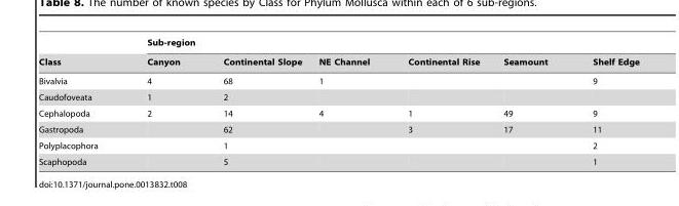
<table><thead><tr><td rowspan="2">Class</td><td colspan="6">Sub-region</td></tr><tr><td>Canyon</td><td>Continental Slope</td><td>NE Channel</td><td>Continental Rise</td><td>Seamount</td><td>Shelf Edge</td></tr></thead><tbody><tr><td>Bivalvia</td><td>4</td><td>68</td><td>1</td><td></td><td></td><td>9</td></tr><tr><td>Caudofoveata</td><td>1</td><td>2</td><td></td><td></td><td></td><td></td></tr><tr><td>Cephalopoda</td><td>2</td><td>14</td><td>4</td><td>1</td><td>49</td><td>9</td></tr><tr><td>Gastropoda</td><td></td><td>62</td><td></td><td>3</td><td>17</td><td>11</td></tr><tr><td>Polyplacophora</td><td></td><td>1</td><td></td><td></td><td></td><td>2</td></tr><tr><td>Scaphopoda</td><td></td><td>5</td><td></td><td></td><td></td><td>1</td></tr></tbody></table>